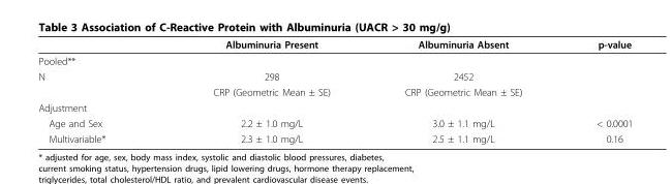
<table><thead><tr><td></td><td>Albuminuria Present</td><td>Albuminuria Absent</td><td>p-value</td></tr></thead><tbody><tr><td colspan="4">Pooled**</td></tr><tr><td rowspan="2">N</td><td>298</td><td>2452</td><td></td></tr><tr><td>CRP (Geometric Mean ± SE)</td><td>CRP (Geometric Mean ± SE)</td><td></td></tr><tr><td colspan="4">Adjustment</td></tr><tr><td>Age and Sex</td><td>2.2 ± 1.0 mg/L</td><td>3.0 ± 1.1 mg/L</td><td>&lt; 0.0001</td></tr><tr><td>Multivariable*</td><td>2.3 ± 1.0 mg/L</td><td>2.5 ± 1.1 mg/L</td><td>0.16</td></tr></tbody></table>